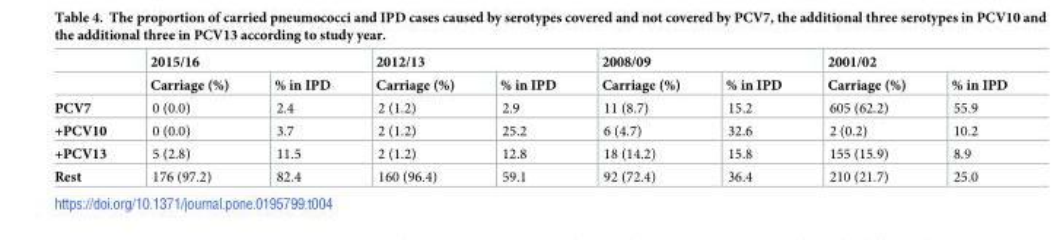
<table><thead><tr><td rowspan="2"></td><td colspan="2">2015/16</td><td colspan="2">2012/13</td><td colspan="2">2008/09</td><td colspan="2">2001/02</td></tr><tr><td>Carriage (%)</td><td>% in IPD</td><td>Carriage (%)</td><td>% in IPD</td><td>Carriage (%)</td><td>% in IPD</td><td>Carriage (%)</td><td>% in IPD</td></tr></thead><tbody><tr><td>PCV7</td><td>0 (0.0)</td><td>2.4</td><td>2 (1.2)</td><td>2.9</td><td>11 (8.7)</td><td>15.2</td><td>605 (62.2)</td><td>55.9</td></tr><tr><td>+PCV10</td><td>0 (0.0)</td><td>3.7</td><td>2 (1.2)</td><td>25.2</td><td>6 (4.7)</td><td>32.6</td><td>2 (0.2)</td><td>10.2</td></tr><tr><td>+PCV13</td><td>5 (2.8)</td><td>11.5</td><td>2 (1.2)</td><td>12.8</td><td>18 (14.2)</td><td>15.8</td><td>155 (15.9)</td><td>8.9</td></tr><tr><td>Rest</td><td>176 (97.2)</td><td>82.4</td><td>160 (96.4)</td><td>59.1</td><td>92 (72.4)</td><td>36.4</td><td>210 (21.7)</td><td>25.0</td></tr></tbody></table>